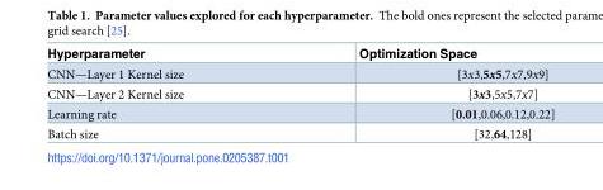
<table><thead><tr><td>Hyperparameter</td><td>Optimization Space</td></tr></thead><tbody><tr><td>CNN—Layer 1 Kernel size</td><td>[3x3,5x5,7x7,9x9]</td></tr><tr><td>CNN—Layer 2 Kernel size</td><td>[3x3,5x5,7x7]</td></tr><tr><td>Learning rate</td><td>[0.01,0.06,0.12,0.22]</td></tr><tr><td>Batch size</td><td>[32,64,128]</td></tr></tbody></table>